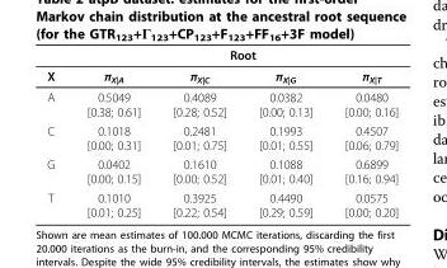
<table><thead><tr><td rowspan="2">X</td><td colspan="4">Root</td></tr><tr><td>π<sub>X|A</sub></td><td>π<sub>X|C</sub></td><td>π<sub>X|G</sub></td><td>π<sub>X|T</sub></td></tr></thead><tbody><tr><td>A</td><td>0.5049 [0.38; 0.61]</td><td>0.4089 [0.28; 0.52]</td><td>0.0382 [0.00; 0.13]</td><td>0.0480 [0.00; 0.16]</td></tr><tr><td>C</td><td>0.1018 [0.00; 0.31]</td><td>0.2481 [0.01; 0.75]</td><td>0.1993 [0.01; 0.55]</td><td>0.4507 [0.06; 0.79]</td></tr><tr><td>G</td><td>0.0402 [0.00; 0.15]</td><td>0.1610 [0.00; 0.52]</td><td>0.1088 [0.01; 0.40]</td><td>0.6899 [0.16; 0.94]</td></tr><tr><td>T</td><td>0.1010 [0.01; 0.25]</td><td>0.3925 [0.22; 0.54]</td><td>0.4490 [0.29; 0.59]</td><td>0.0575 [0.00; 0.20]</td></tr></tbody></table>